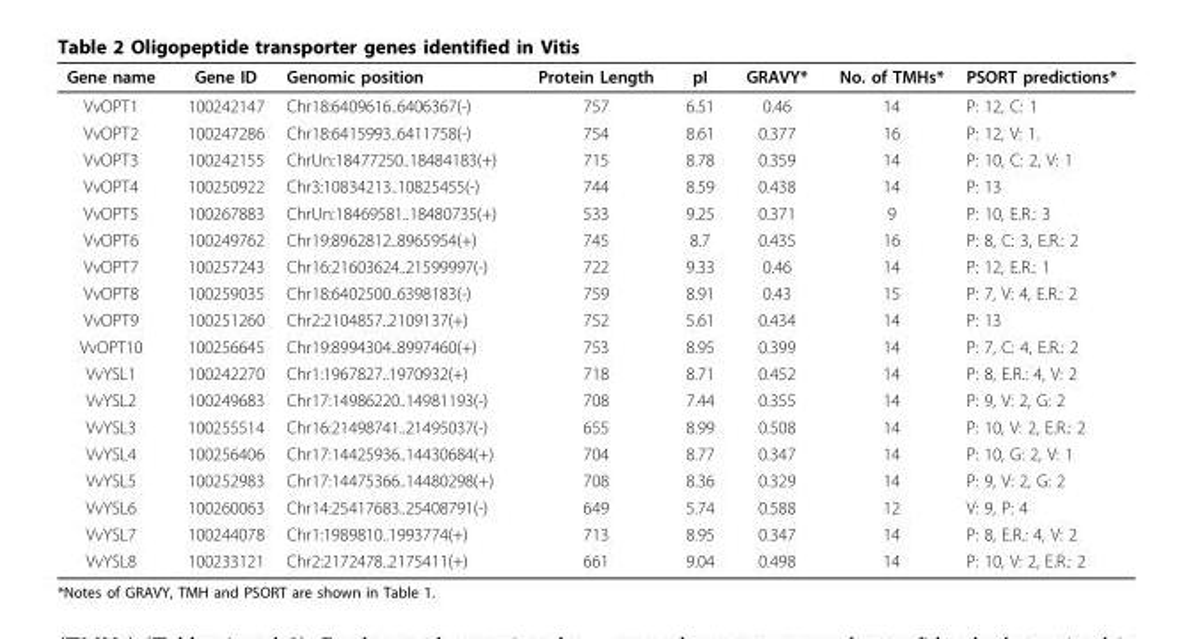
<table><thead><tr><td>Gene name</td><td>Gene ID</td><td>Genomic position</td><td>Protein Length</td><td>pI</td><td>GRAVY*</td><td>No. of TMHs*</td><td>PSORT predictions*</td></tr></thead><tbody><tr><td>VvOPT1</td><td>100242147</td><td>Chr18:6409616..6406367(-)</td><td>757</td><td>6.51</td><td>0.46</td><td>14</td><td>P: 12, C: 1</td></tr><tr><td>VvOPT2</td><td>100247286</td><td>Chr18:6415993..6411758(-)</td><td>754</td><td>8.61</td><td>0.377</td><td>16</td><td>P: 12, V: 1.</td></tr><tr><td>VvOPT3</td><td>100242155</td><td>ChrUn:18477250..18484183(+)</td><td>715</td><td>8.78</td><td>0.359</td><td>14</td><td>P: 10, C: 2, V: 1</td></tr><tr><td>VvOPT4</td><td>100250922</td><td>Chr3:10834213..10825455(-)</td><td>744</td><td>8.59</td><td>0.438</td><td>14</td><td>P: 13</td></tr><tr><td>VvOPT5</td><td>100267883</td><td>ChrUn:18469581..18480735(+)</td><td>533</td><td>9.25</td><td>0.371</td><td>9</td><td>P: 10, E.R.: 3</td></tr><tr><td>VvOPT6</td><td>100249762</td><td>Chr19:8962812..8965954(+)</td><td>745</td><td>8.7</td><td>0.435</td><td>16</td><td>P: 8, C: 3, E.R.: 2</td></tr><tr><td>VvOPT7</td><td>100257243</td><td>Chr16:21603624..21599997(-)</td><td>722</td><td>9.33</td><td>0.46</td><td>14</td><td>P: 12, E.R.: 1</td></tr><tr><td>VvOPT8</td><td>100259035</td><td>Chr18:6402500..6398183(-)</td><td>759</td><td>8.91</td><td>0.43</td><td>15</td><td>P: 7, V: 4, E.R.: 2</td></tr><tr><td>VvOPT9</td><td>100251260</td><td>Chr2:2104857..2109137(+)</td><td>752</td><td>5.61</td><td>0.434</td><td>14</td><td>P: 13</td></tr><tr><td>VvOPT10</td><td>100256645</td><td>Chr19:8994304..8997460(+)</td><td>753</td><td>8.95</td><td>0.399</td><td>14</td><td>P: 7, C: 4, E.R.: 2</td></tr><tr><td>VvYSL1</td><td>100242270</td><td>Chr1:1967827..1970932(+)</td><td>718</td><td>8.71</td><td>0.452</td><td>14</td><td>P: 8, E.R.: 4, V: 2</td></tr><tr><td>VvYSL2</td><td>100249683</td><td>Chr17:14986220..14981193(-)</td><td>708</td><td>7.44</td><td>0.355</td><td>14</td><td>P: 9, V: 2, G: 2</td></tr><tr><td>VvYSL3</td><td>100255514</td><td>Chr16:21498741..21495037(-)</td><td>655</td><td>8.99</td><td>0.508</td><td>14</td><td>P: 10, V: 2, E.R.: 2</td></tr><tr><td>VvYSL4</td><td>100256406</td><td>Chr17:14425936..14430684(+)</td><td>704</td><td>8.77</td><td>0.347</td><td>14</td><td>P: 10, G: 2, V: 1</td></tr><tr><td>VvYSL5</td><td>100252983</td><td>Chr17:14475366..14480298(+)</td><td>708</td><td>8.36</td><td>0.329</td><td>14</td><td>P: 9, V: 2, G: 2</td></tr><tr><td>VvYSL6</td><td>100260063</td><td>Chr14:25417683..25408791(-)</td><td>649</td><td>5.74</td><td>0.588</td><td>12</td><td>V: 9, P: 4</td></tr><tr><td>VvYSL7</td><td>100244078</td><td>Chr1:1989810..1993774(+)</td><td>713</td><td>8.95</td><td>0.347</td><td>14</td><td>P: 8, E.R.: 4, V: 2</td></tr><tr><td>VvYSL8</td><td>100233121</td><td>Chr2:2172478..2175411(+)</td><td>661</td><td>9.04</td><td>0.498</td><td>14</td><td>P: 10, V: 2, E.R.: 2</td></tr></tbody></table>